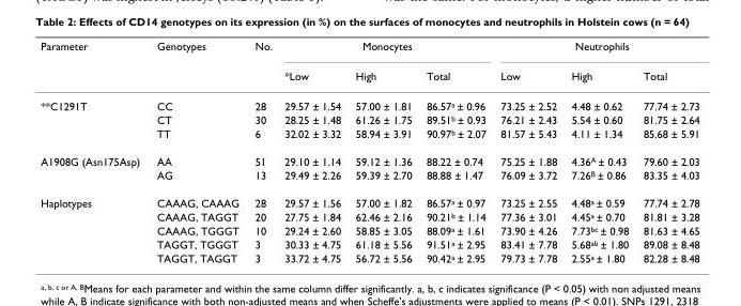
<table><thead><tr><td rowspan="2">Parameter</td><td rowspan="2">Genotypes</td><td rowspan="2">No.</td><td colspan="3">Monocytes</td><td colspan="3">Neutrophils</td></tr><tr><td>*Low</td><td>High</td><td>Total</td><td>Low</td><td>High</td><td>Total</td></tr></thead><tbody><tr><td rowspan="3">**C1291T</td><td>CC</td><td>28</td><td>29.57 ± 1.54</td><td>57.00 ± 1.81</td><td>86.57<sup>a</sup> ± 0.96</td><td>73.25 ± 2.52</td><td>4.48 ± 0.62</td><td>77.74 ± 2.73</td></tr><tr><td>CT</td><td>30</td><td>28.25 ± 1.48</td><td>61.26 ± 1.75</td><td>89.51<sup>b</sup> ± 0.93</td><td>76.21 ± 2.43</td><td>5.54 ± 0.60</td><td>81.75 ± 2.64</td></tr><tr><td>TT</td><td>6</td><td>32.02 ± 3.32</td><td>58.94 ± 3.91</td><td>90.97<sup>b</sup> ± 2.07</td><td>81.57 ± 5.43</td><td>4.11 ± 1.34</td><td>85.68 ± 5.91</td></tr><tr><td rowspan="2">A1908G (Asn175Asp)</td><td>AA</td><td>51</td><td>29.10 ± 1.14</td><td>59.12 ± 1.36</td><td>88.22 ± 0.74</td><td>75.25 ± 1.88</td><td>4.36<sup>A</sup> ± 0.43</td><td>79.60 ± 2.03</td></tr><tr><td>AG</td><td>13</td><td>29.49 ± 2.26</td><td>59.39 ± 2.70</td><td>88.88 ± 1.47</td><td>76.09 ± 3.72</td><td>7.26<sup>B</sup> ± 0.86</td><td>83.35 ± 4.03</td></tr><tr><td rowspan="5">Haplotypes</td><td>CAAAG, CAAAG</td><td>28</td><td>29.57 ± 1.56</td><td>57.00 ± 1.82</td><td>86.57<sup>a</sup> ± 0.97</td><td>73.25 ± 2.55</td><td>4.48<sup>a</sup> ± 0.59</td><td>77.74 ± 2.78</td></tr><tr><td>CAAAG, TAGGT</td><td>20</td><td>27.75 ± 1.84</td><td>62.46 ± 2.16</td><td>90.21<sup>b</sup> ± 1.14</td><td>77.36 ± 3.01</td><td>4.45<sup>a</sup> ± 0.70</td><td>81.81 ± 3.28</td></tr><tr><td>CAAAG, TGGGT</td><td>10</td><td>29.24 ± 2.60</td><td>58.85 ± 3.05</td><td>88.09<sup>a</sup> ± 1.61</td><td>73.90 ± 4.26</td><td>7.73<sup>bc</sup> ± 0.98</td><td>81.63 ± 4.65</td></tr><tr><td>TAGGT, TGGGT</td><td>3</td><td>30.33 ± 4.75</td><td>61.18 ± 5.56</td><td>91.51<sup>a</sup> ± 2.95</td><td>83.41 ± 7.78</td><td>5.68<sup>ab</sup> ± 1.80</td><td>89.08 ± 8.48</td></tr><tr><td>TAGGT, TAGGT</td><td>3</td><td>33.72 ± 4.75</td><td>56.72 ± 5.56</td><td>90.42<sup>a</sup> ± 2.95</td><td>79.73 ± 7.78</td><td>2.55<sup>a</sup> ± 1.80</td><td>82.28 ± 8.48</td></tr></tbody></table>